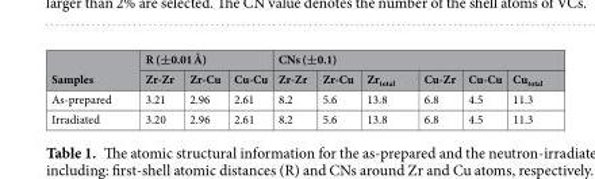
<table><thead><tr><td rowspan="2">Samples</td><td colspan="3">R (±0.01 Å)</td><td colspan="6">CNs (±0.1)</td></tr><tr><td>Zr-Zr</td><td>Zr-Cu</td><td>Cu-Cu</td><td>Zr-Zr</td><td>Zr-Cu</td><td>Zr<sub>total</sub></td><td>Cu-Zr</td><td>Cu-Cu</td><td>Cu<sub>total</sub></td></tr></thead><tbody><tr><td>As-prepared</td><td>3.21</td><td>2.96</td><td>2.61</td><td>8.2</td><td>5.6</td><td>13.8</td><td>6.8</td><td>4.5</td><td>11.3</td></tr><tr><td>Irradiated</td><td>3.20</td><td>2.96</td><td>2.61</td><td>8.2</td><td>5.6</td><td>13.8</td><td>6.8</td><td>4.5</td><td>11.3</td></tr></tbody></table>